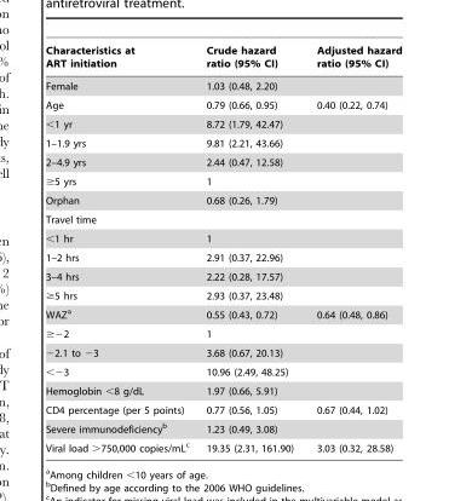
<table><thead><tr><td>Characteristics at ART initiation</td><td>Crude hazard ratio (95% CI)</td><td>Adjusted hazard ratio (95% CI)</td></tr></thead><tbody><tr><td>Female</td><td>1.03 (0.48, 2.20)</td><td></td></tr><tr><td>Age</td><td>0.79 (0.66, 0.95)</td><td>0.40 (0.22, 0.74)</td></tr><tr><td>&lt;1 yr</td><td>8.72 (1.79, 42.47)</td><td></td></tr><tr><td>1–1.9 yrs</td><td>9.81 (2.21, 43.66)</td><td></td></tr><tr><td>2–4.9 yrs</td><td>2.44 (0.47, 12.58)</td><td></td></tr><tr><td>≥5 yrs</td><td>1</td><td></td></tr><tr><td>Orphan</td><td>0.68 (0.26, 1.79)</td><td></td></tr><tr><td colspan="3">Travel time</td></tr><tr><td>&lt;1 hr</td><td>1</td><td></td></tr><tr><td>1–2 hrs</td><td>2.91 (0.37, 22.96)</td><td></td></tr><tr><td>3–4 hrs</td><td>2.22 (0.28, 17.57)</td><td></td></tr><tr><td>≥5 hrs</td><td>2.93 (0.37, 23.48)</td><td></td></tr><tr><td>WAZ<sup>a</sup></td><td>0.55 (0.43, 0.72)</td><td>0.64 (0.48, 0.86)</td></tr><tr><td>≥−2</td><td>1</td><td></td></tr><tr><td>−2.1 to −3</td><td>3.68 (0.67, 20.13)</td><td></td></tr><tr><td>&lt;−3</td><td>10.96 (2.49, 48.25)</td><td></td></tr><tr><td>Hemoglobin &lt;8 g/dL</td><td>1.97 (0.66, 5.91)</td><td></td></tr><tr><td>CD4 percentage (per 5 points)</td><td>0.77 (0.56, 1.05)</td><td>0.67 (0.44, 1.02)</td></tr><tr><td>Severe immunodeficiency<sup>b</sup></td><td>1.23 (0.49, 3.08)</td><td></td></tr><tr><td>Viral load &gt;750,000 copies/mL<sup>c</sup></td><td>19.35 (2.31, 161.90)</td><td>3.03 (0.32, 28.58)</td></tr></tbody></table>